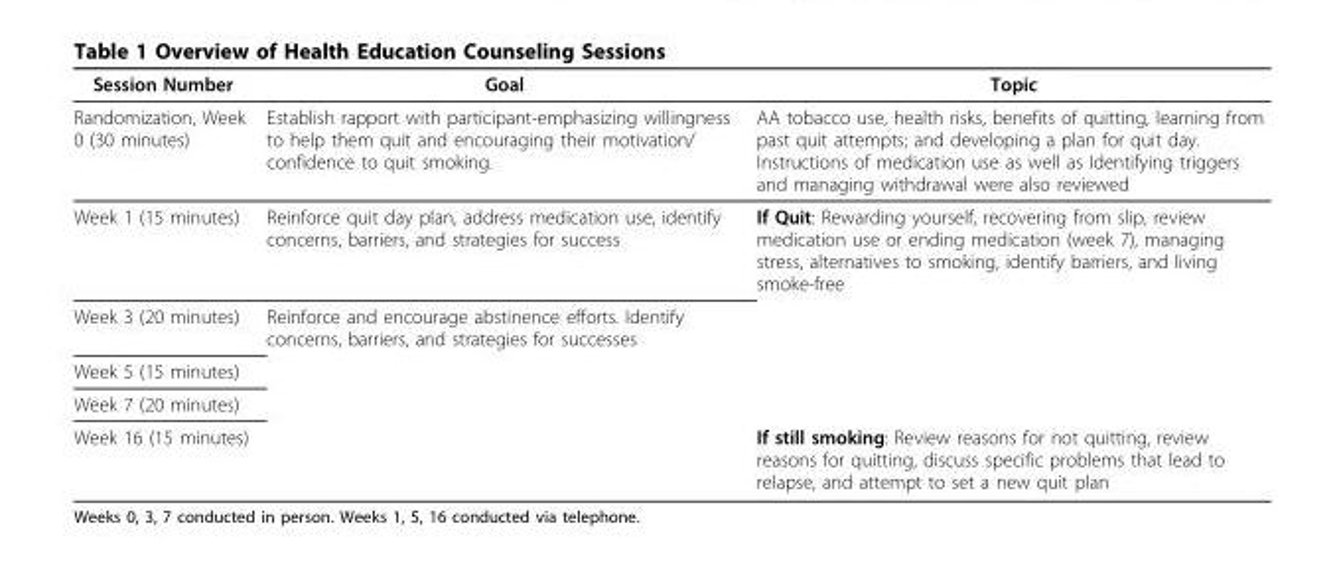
<table><thead><tr><td>Session Number</td><td>Goal</td><td>Topic</td></tr></thead><tbody><tr><td>Randomization, Week 0 (30 minutes)</td><td>Establish rapport with participant-emphasizing willingness to help them quit and encouraging their motivation/ confidence to quit smoking.</td><td>AA tobacco use, health risks, benefits of quitting, learning from past quit attempts; and developing a plan for quit day. Instructions of medication use as well as Identifying triggers and managing withdrawal were also reviewed</td></tr><tr><td>Week 1 (15 minutes)</td><td>Reinforce quit day plan, address medication use, identify concerns, barriers, and strategies for success</td><td>If Quit: Rewarding yourself, recovering from slip, review medication use or ending medication (week 7), managing stress, alternatives to smoking, identify barriers, and living smoke-free</td></tr><tr><td>Week 3 (20 minutes)</td><td>Reinforce and encourage abstinence efforts. Identify concerns, barriers, and strategies for successes</td><td></td></tr><tr><td colspan="3">Week 5 (15 minutes)</td></tr><tr><td colspan="3">Week 7 (20 minutes)</td></tr><tr><td>Week 16 (15 minutes)</td><td></td><td>If still smoking: Review reasons for not quitting, review reasons for quitting, discuss specific problems that lead to relapse, and attempt to set a new quit plan</td></tr></tbody></table>